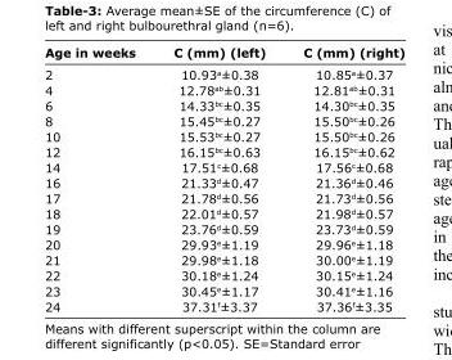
<table><thead><tr><td>Age in weeks</td><td>C (mm) (left)</td><td>C (mm) (right)</td></tr></thead><tbody><tr><td>2</td><td>10.93<sup>a</sup>±0.38</td><td>10.85<sup>a</sup>±0.37</td></tr><tr><td>4</td><td>12.78<sup>ab</sup>±0.31</td><td>12.81<sup>ab</sup>±0.31</td></tr><tr><td>6</td><td>14.33<sup>bc</sup>±0.35</td><td>14.30<sup>bc</sup>±0.35</td></tr><tr><td>8</td><td>15.45<sup>bc</sup>±0.27</td><td>15.50<sup>bc</sup>±0.26</td></tr><tr><td>10</td><td>15.53<sup>bc</sup>±0.27</td><td>15.50<sup>bc</sup>±0.26</td></tr><tr><td>12</td><td>16.15<sup>bc</sup>±0.63</td><td>16.15<sup>bc</sup>±0.62</td></tr><tr><td>14</td><td>17.51<sup>c</sup>±0.68</td><td>17.56<sup>c</sup>±0.68</td></tr><tr><td>16</td><td>21.33<sup>d</sup>±0.47</td><td>21.36<sup>d</sup>±0.46</td></tr><tr><td>17</td><td>21.78<sup>d</sup>±0.56</td><td>21.73<sup>d</sup>±0.56</td></tr><tr><td>18</td><td>22.01<sup>d</sup>±0.57</td><td>21.98<sup>d</sup>±0.57</td></tr><tr><td>19</td><td>23.76<sup>d</sup>±0.59</td><td>23.73<sup>d</sup>±0.59</td></tr><tr><td>20</td><td>29.93<sup>e</sup>±1.19</td><td>29.96<sup>e</sup>±1.18</td></tr><tr><td>21</td><td>29.98<sup>e</sup>±1.18</td><td>30.00<sup>e</sup>±1.19</td></tr><tr><td>22</td><td>30.18<sup>e</sup>±1.24</td><td>30.15<sup>e</sup>±1.24</td></tr><tr><td>23</td><td>30.45<sup>e</sup>±1.17</td><td>30.41<sup>e</sup>±1.16</td></tr><tr><td>24</td><td>37.31<sup>f</sup>±3.37</td><td>37.36<sup>f</sup>±3.35</td></tr></tbody></table>